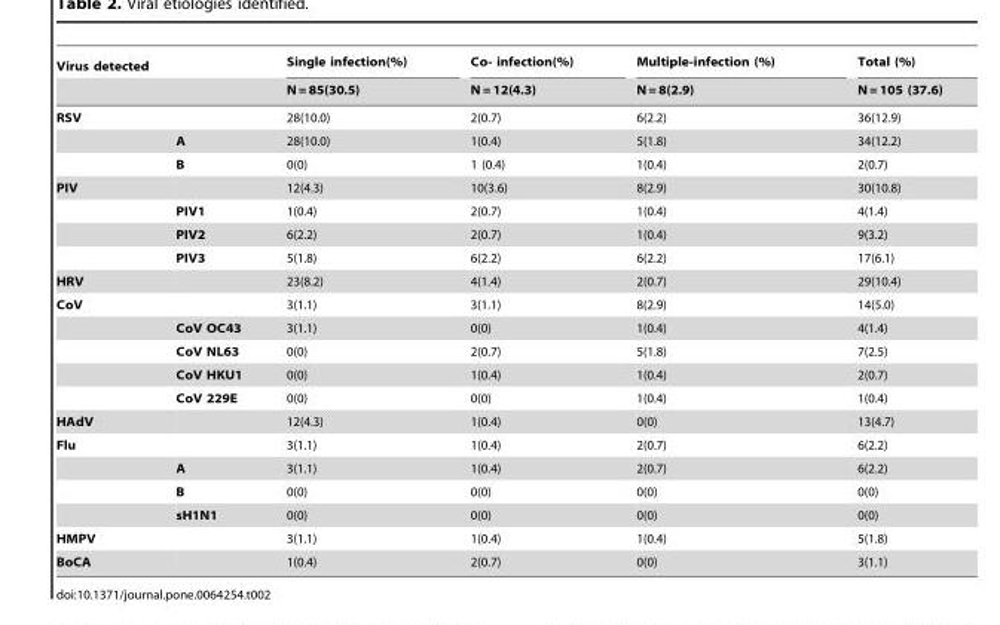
<table><thead><tr><td colspan="2">Virus detected</td><td rowspan="2">Single infection(%) N = 85(30.5)</td><td rowspan="2">Co- infection(%) N = 12(4.3)</td><td rowspan="2">Multiple-infection (%) N = 8(2.9)</td><td rowspan="2">Total (%) N = 105 (37.6)</td></tr><tr><td></td><td></td></tr></thead><tbody><tr><td rowspan="3">RSV</td><td></td><td>28(10.0)</td><td>2(0.7)</td><td>6(2.2)</td><td>36(12.9)</td></tr><tr><td>A</td><td>28(10.0)</td><td>1(0.4)</td><td>5(1.8)</td><td>34(12.2)</td></tr><tr><td>B</td><td>0(0)</td><td>1 (0.4)</td><td>1(0.4)</td><td>2(0.7)</td></tr><tr><td rowspan="4">PIV</td><td></td><td>12(4.3)</td><td>10(3.6)</td><td>8(2.9)</td><td>30(10.8)</td></tr><tr><td>PIV1</td><td>1(0.4)</td><td>2(0.7)</td><td>1(0.4)</td><td>4(1.4)</td></tr><tr><td>PIV2</td><td>6(2.2)</td><td>2(0.7)</td><td>1(0.4)</td><td>9(3.2)</td></tr><tr><td>PIV3</td><td>5(1.8)</td><td>6(2.2)</td><td>6(2.2)</td><td>17(6.1)</td></tr><tr><td>HRV</td><td></td><td>23(8.2)</td><td>4(1.4)</td><td>2(0.7)</td><td>29(10.4)</td></tr><tr><td rowspan="5">CoV</td><td></td><td>3(1.1)</td><td>3(1.1)</td><td>8(2.9)</td><td>14(5.0)</td></tr><tr><td>CoV OC43</td><td>3(1.1)</td><td>0(0)</td><td>1(0.4)</td><td>4(1.4)</td></tr><tr><td>CoV NL63</td><td>0(0)</td><td>2(0.7)</td><td>5(1.8)</td><td>7(2.5)</td></tr><tr><td>CoV HKU1</td><td>0(0)</td><td>1(0.4)</td><td>1(0.4)</td><td>2(0.7)</td></tr><tr><td>CoV 229E</td><td>0(0)</td><td>0(0)</td><td>1(0.4)</td><td>1(0.4)</td></tr><tr><td>HAdV</td><td></td><td>12(4.3)</td><td>1(0.4)</td><td>0(0)</td><td>13(4.7)</td></tr><tr><td rowspan="4">Flu</td><td></td><td>3(1.1)</td><td>1(0.4)</td><td>2(0.7)</td><td>6(2.2)</td></tr><tr><td>A</td><td>3(1.1)</td><td>1(0.4)</td><td>2(0.7)</td><td>6(2.2)</td></tr><tr><td>B</td><td>0(0)</td><td>0(0)</td><td>0(0)</td><td>0(0)</td></tr><tr><td>sH1N1</td><td>0(0)</td><td>0(0)</td><td>0(0)</td><td>0(0)</td></tr><tr><td>HMPV</td><td></td><td>3(1.1)</td><td>1(0.4)</td><td>1(0.4)</td><td>5(1.8)</td></tr><tr><td>BoCA</td><td></td><td>1(0.4)</td><td>2(0.7)</td><td>0(0)</td><td>3(1.1)</td></tr></tbody></table>